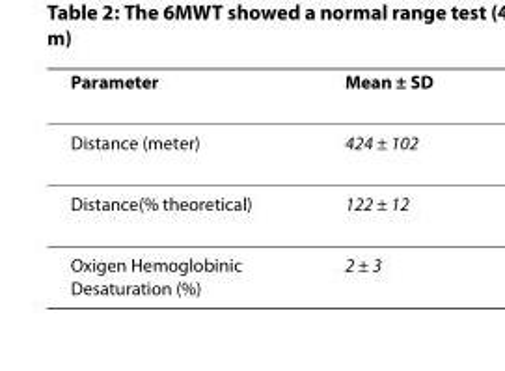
<table><thead><tr><td>Parameter</td><td>Mean ± SD</td></tr></thead><tbody><tr><td>Distance (meter)</td><td>424 ± 102</td></tr><tr><td>Distance(% theoretical)</td><td>122 ± 12</td></tr><tr><td>Oxigen Hemoglobinic Desaturation (%)</td><td>2 ± 3</td></tr></tbody></table>